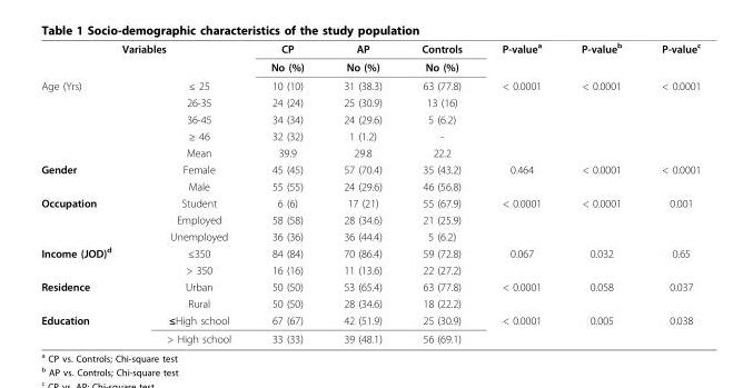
<table><tbody><tr><td rowspan="2" colspan="2">Variables</td><td>CP</td><td>AP</td><td>Controls</td><td>P-value<sup>a</sup></td><td>P-value<sup>b</sup></td><td>P-value<sup>c</sup></td></tr><tr><td>No (%)</td><td>No (%)</td><td>No (%)</td><td></td><td></td><td></td></tr><tr><td rowspan="5">Age (Yrs)</td><td>≤ 25</td><td>10 (10)</td><td>31 (38.3)</td><td>63 (77.8)</td><td>&lt; 0.0001</td><td>&lt; 0.0001</td><td>&lt; 0.0001</td></tr><tr><td>26-35</td><td>24 (24)</td><td>25 (30.9)</td><td>13 (16)</td><td></td><td></td><td></td></tr><tr><td>36-45</td><td>34 (34)</td><td>24 (29.6)</td><td>5 (6.2)</td><td></td><td></td><td></td></tr><tr><td>≥ 46</td><td>32 (32)</td><td>1 (1.2)</td><td>-</td><td></td><td></td><td></td></tr><tr><td>Mean</td><td>39.9</td><td>29.8</td><td>22.2</td><td></td><td></td><td></td></tr><tr><td rowspan="2">Gender</td><td>Female</td><td>45 (45)</td><td>57 (70.4)</td><td>35 (43.2)</td><td>0.464</td><td>&lt; 0.0001</td><td>&lt; 0.0001</td></tr><tr><td>Male</td><td>55 (55)</td><td>24 (29.6)</td><td>46 (56.8)</td><td></td><td></td><td></td></tr><tr><td rowspan="3">Occupation</td><td>Student</td><td>6 (6)</td><td>17 (21)</td><td>55 (67.9)</td><td>&lt; 0.0001</td><td>&lt; 0.0001</td><td>0.001</td></tr><tr><td>Employed</td><td>58 (58)</td><td>28 (34.6)</td><td>21 (25.9)</td><td></td><td></td><td></td></tr><tr><td>Unemployed</td><td>36 (36)</td><td>36 (44.4)</td><td>5 (6.2)</td><td></td><td></td><td></td></tr><tr><td rowspan="2">Income (JOD)<sup>d</sup></td><td>≤350</td><td>84 (84)</td><td>70 (86.4)</td><td>59 (72.8)</td><td>0.067</td><td>0.032</td><td>0.65</td></tr><tr><td>&gt; 350</td><td>16 (16)</td><td>11 (13.6)</td><td>22 (27.2)</td><td></td><td></td><td></td></tr><tr><td rowspan="2">Residence</td><td>Urban</td><td>50 (50)</td><td>53 (65.4)</td><td>63 (77.8)</td><td>&lt; 0.0001</td><td>0.058</td><td>0.037</td></tr><tr><td>Rural</td><td>50 (50)</td><td>28 (34.6)</td><td>18 (22.2)</td><td></td><td></td><td></td></tr><tr><td rowspan="2">Education</td><td>≤High school</td><td>67 (67)</td><td>42 (51.9)</td><td>25 (30.9)</td><td>&lt; 0.0001</td><td>0.005</td><td>0.038</td></tr><tr><td>&gt; High school</td><td>33 (33)</td><td>39 (48.1)</td><td>56 (69.1)</td><td></td><td></td><td></td></tr></tbody></table>